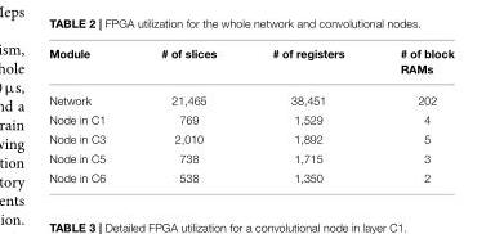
<table><thead><tr><td>Module</td><td># of slices</td><td># of registers</td><td># of block RAMs</td></tr></thead><tbody><tr><td>Network</td><td>21,465</td><td>38,451</td><td>202</td></tr><tr><td>Node in C1</td><td>769</td><td>1,529</td><td>4</td></tr><tr><td>Node in C3</td><td>2,010</td><td>1,892</td><td>5</td></tr><tr><td>Node in C5</td><td>738</td><td>1,715</td><td>3</td></tr><tr><td>Node in C6</td><td>538</td><td>1,350</td><td>2</td></tr></tbody></table>